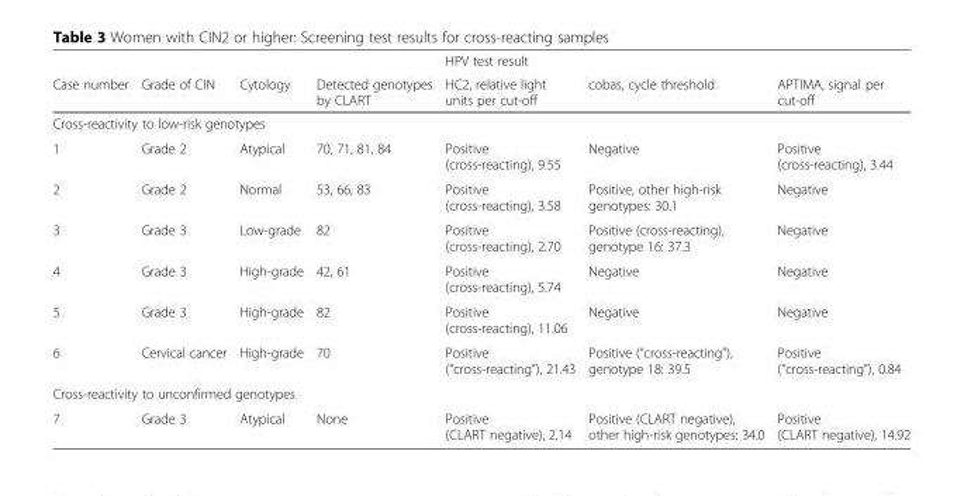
<table><thead><tr><td rowspan="2">Case number</td><td rowspan="2">Grade of CIN</td><td rowspan="2">Cytology</td><td rowspan="2">Detected genotypes by CLART</td><td rowspan="2">HPV test result HC2, relative light units per cut-off</td><td rowspan="2">cobas, cycle threshold</td><td rowspan="2">APTIMA, signal per cut-off</td></tr><tr></tr></thead><tbody><tr><td colspan="7">Cross-reactivity to low-risk genotypes</td></tr><tr><td>1</td><td>Grade 2</td><td>Atypical</td><td>70, 71, 81, 84</td><td>Positive (cross-reacting), 9.55</td><td>Negative</td><td>Positive (cross-reacting), 3.44</td></tr><tr><td>2</td><td>Grade 2</td><td>Normal</td><td>53, 66, 83</td><td>Positive (cross-reacting), 3.58</td><td>Positive, other high-risk genotypes: 30.1</td><td>Negative</td></tr><tr><td>3</td><td>Grade 3</td><td>Low-grade</td><td>82</td><td>Positive (cross-reacting), 2.70</td><td>Positive (cross-reacting), genotype 16: 37.3</td><td>Negative</td></tr><tr><td>4</td><td>Grade 3</td><td>High-grade</td><td>42, 61</td><td>Positive (cross-reacting), 5.74</td><td>Negative</td><td>Negative</td></tr><tr><td>5</td><td>Grade 3</td><td>High-grade</td><td>82</td><td>Positive (cross-reacting), 11.06</td><td>Negative</td><td>Negative</td></tr><tr><td>6</td><td>Cervical cancer</td><td>High-grade</td><td>70</td><td>Positive (“cross-reacting”), 21.43</td><td>Positive (“cross-reacting”), genotype 18: 39.5</td><td>Positive (“cross-reacting”), 0.84</td></tr><tr><td colspan="7">Cross-reactivity to unconfirmed genotypes</td></tr><tr><td>7</td><td>Grade 3</td><td>Atypical</td><td>None</td><td>Positive (CLART negative), 2.14</td><td>Positive (CLART negative), other high-risk genotypes: 34.0</td><td>Positive (CLART negative), 14.92</td></tr></tbody></table>